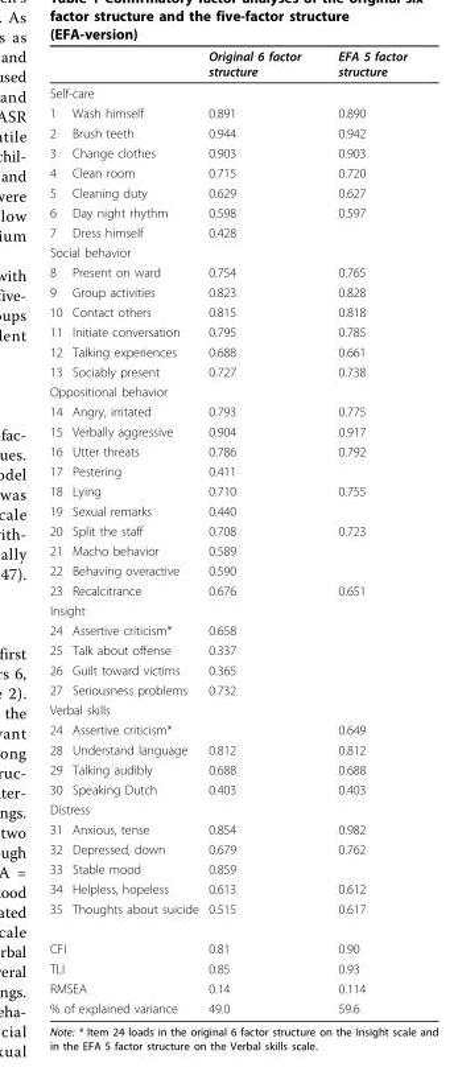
<table><thead><tr><td></td><td></td><td>Original 6 factor structure</td><td>EFA 5 factor structure</td></tr></thead><tbody><tr><td colspan="4">Self-care</td></tr><tr><td>1</td><td>Wash himself</td><td>0.891</td><td>0.890</td></tr><tr><td>2</td><td>Brush teeth</td><td>0.944</td><td>0.942</td></tr><tr><td>3</td><td>Change clothes</td><td>0.903</td><td>0.903</td></tr><tr><td>4</td><td>Clean room</td><td>0.715</td><td>0.720</td></tr><tr><td>5</td><td>Cleaning duty</td><td>0.629</td><td>0.627</td></tr><tr><td>6</td><td>Day night rhythm</td><td>0.598</td><td>0.597</td></tr><tr><td>7</td><td>Dress himself</td><td>0.428</td><td></td></tr><tr><td colspan="4">Social behavior</td></tr><tr><td>8</td><td>Present on ward</td><td>0.754</td><td>0.765</td></tr><tr><td>9</td><td>Group activities</td><td>0.823</td><td>0.828</td></tr><tr><td>10</td><td>Contact others</td><td>0.815</td><td>0.818</td></tr><tr><td>11</td><td>Initiate conversation</td><td>0.795</td><td>0.785</td></tr><tr><td>12</td><td>Talking experiences</td><td>0.688</td><td>0.661</td></tr><tr><td>13</td><td>Sociably present</td><td>0.727</td><td>0.738</td></tr><tr><td colspan="4">Oppositional behavior</td></tr><tr><td>14</td><td>Angry, irritated</td><td>0.793</td><td>0.775</td></tr><tr><td>15</td><td>Verbally aggressive</td><td>0.904</td><td>0.917</td></tr><tr><td>16</td><td>Utter threats</td><td>0.786</td><td>0.792</td></tr><tr><td>17</td><td>Pestering</td><td>0.411</td><td></td></tr><tr><td>18</td><td>Lying</td><td>0.710</td><td>0.755</td></tr><tr><td>19</td><td>Sexual remarks</td><td>0.440</td><td></td></tr><tr><td>20</td><td>Split the staff</td><td>0.708</td><td>0.723</td></tr><tr><td>21</td><td>Macho behavior</td><td>0.589</td><td></td></tr><tr><td>22</td><td>Behaving overactive</td><td>0.590</td><td></td></tr><tr><td>23</td><td>Recalcitrance</td><td>0.676</td><td>0.651</td></tr><tr><td colspan="4">Insight</td></tr><tr><td>24</td><td>Assertive criticism*</td><td>0.658</td><td></td></tr><tr><td>25</td><td>Talk about offense</td><td>0.337</td><td></td></tr><tr><td>26</td><td>Guilt toward victims</td><td>0.365</td><td></td></tr><tr><td>27</td><td>Seriousness problems</td><td>0.732</td><td></td></tr><tr><td colspan="4">Verbal skills</td></tr><tr><td>24</td><td>Assertive criticism*</td><td></td><td>0.649</td></tr><tr><td>28</td><td>Understand language</td><td>0.812</td><td>0.812</td></tr><tr><td>29</td><td>Talking audibly</td><td>0.688</td><td>0.688</td></tr><tr><td>30</td><td>Speaking Dutch</td><td>0.403</td><td>0.403</td></tr><tr><td colspan="4">Distress</td></tr><tr><td>31</td><td>Anxious, tense</td><td>0.854</td><td>0.982</td></tr><tr><td>32</td><td>Depressed, down</td><td>0.679</td><td>0.762</td></tr><tr><td>33</td><td>Stable mood</td><td>0.859</td><td></td></tr><tr><td>34</td><td>Helpless, hopeless</td><td>0.613</td><td>0.612</td></tr><tr><td>35</td><td>Thoughts about suicide</td><td>0.515</td><td>0.617</td></tr><tr><td colspan="2">CFI</td><td>0.81</td><td>0.90</td></tr><tr><td colspan="2">TLI</td><td>0.85</td><td>0.93</td></tr><tr><td colspan="2">RMSEA</td><td>0.14</td><td>0.114</td></tr><tr><td colspan="2">% of explained variance</td><td>49.0</td><td>59.6</td></tr></tbody></table>